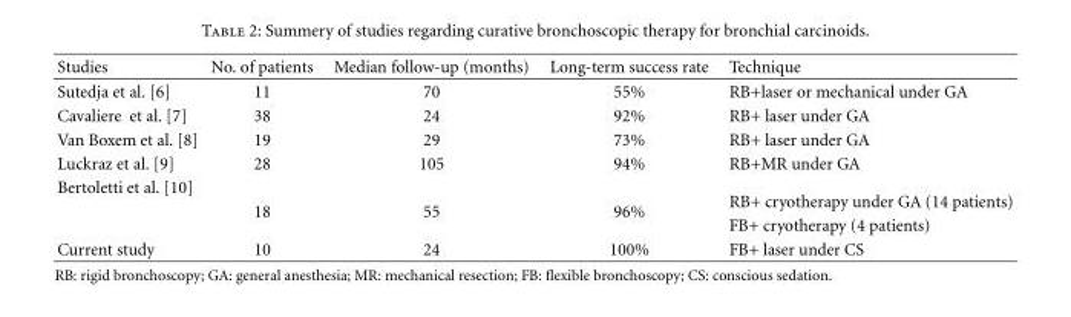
<table><thead><tr><td>Studies</td><td>No. of patients</td><td>Median follow-up (months)</td><td>Long-term success rate</td><td>Technique</td></tr></thead><tbody><tr><td>Sutedja et al. [6]</td><td>11</td><td>70</td><td>55%</td><td>RB+laser or mechanical under GA</td></tr><tr><td>Cavaliere et al. [7]</td><td>38</td><td>24</td><td>92%</td><td>RB+ laser under GA</td></tr><tr><td>Van Boxem et al. [8]</td><td>19</td><td>29</td><td>73%</td><td>RB+ laser under GA</td></tr><tr><td>Luckraz et al. [9]</td><td>28</td><td>105</td><td>94%</td><td>RB+MR under GA</td></tr><tr><td rowspan="2">Bertoletti et al. [10]</td><td rowspan="2">18</td><td rowspan="2">55</td><td rowspan="2">96%</td><td>RB+ cryotherapy under GA (14 patients)</td></tr><tr><td>FB+ cryotherapy (4 patients)</td></tr><tr><td>Current study</td><td>10</td><td>24</td><td>100%</td><td>FB+ laser under CS</td></tr></tbody></table>